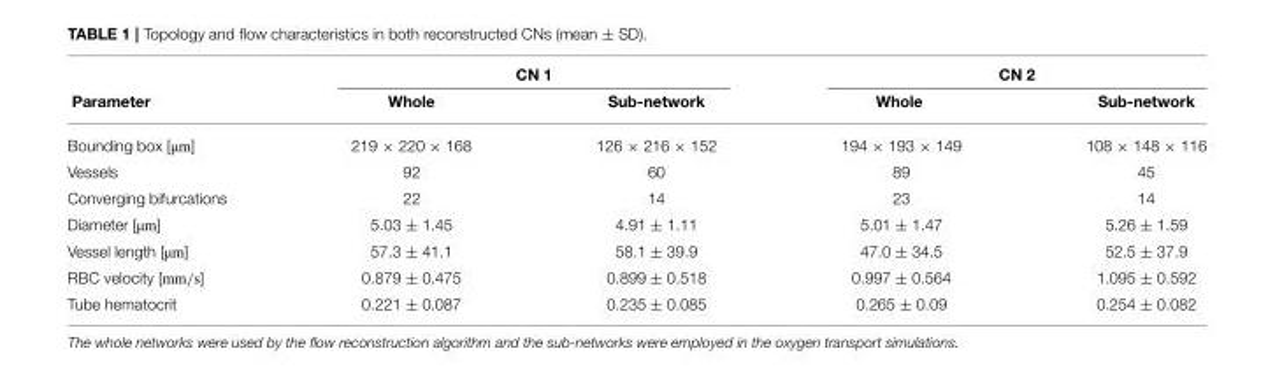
<table><thead><tr><td rowspan="2">Parameter</td><td colspan="2">CN 1</td><td colspan="2">CN 2</td></tr><tr><td>Whole</td><td>Sub-network</td><td>Whole</td><td>Sub-network</td></tr></thead><tbody><tr><td>Bounding box [µm]</td><td>219 × 220 × 168</td><td>126 × 216 × 152</td><td>194 × 193 × 149</td><td>108 × 148 × 116</td></tr><tr><td>Vessels</td><td>92</td><td>60</td><td>89</td><td>45</td></tr><tr><td>Converging bifurcations</td><td>22</td><td>14</td><td>23</td><td>14</td></tr><tr><td>Diameter [µm]</td><td>5.03 ± 1.45</td><td>4.91 ± 1.11</td><td>5.01 ± 1.47</td><td>5.26 ± 1.59</td></tr><tr><td>Vessel length [µm]</td><td>57.3 ± 41.1</td><td>58.1 ± 39.9</td><td>47.0 ± 34.5</td><td>52.5 ± 37.9</td></tr><tr><td>RBC velocity [mm/s]</td><td>0.879 ± 0.475</td><td>0.899 ± 0.518</td><td>0.997 ± 0.564</td><td>1.095 ± 0.592</td></tr><tr><td>Tube hematocrit</td><td>0.221 ± 0.087</td><td>0.235 ± 0.085</td><td>0.265 ± 0.09</td><td>0.254 ± 0.082</td></tr></tbody></table>